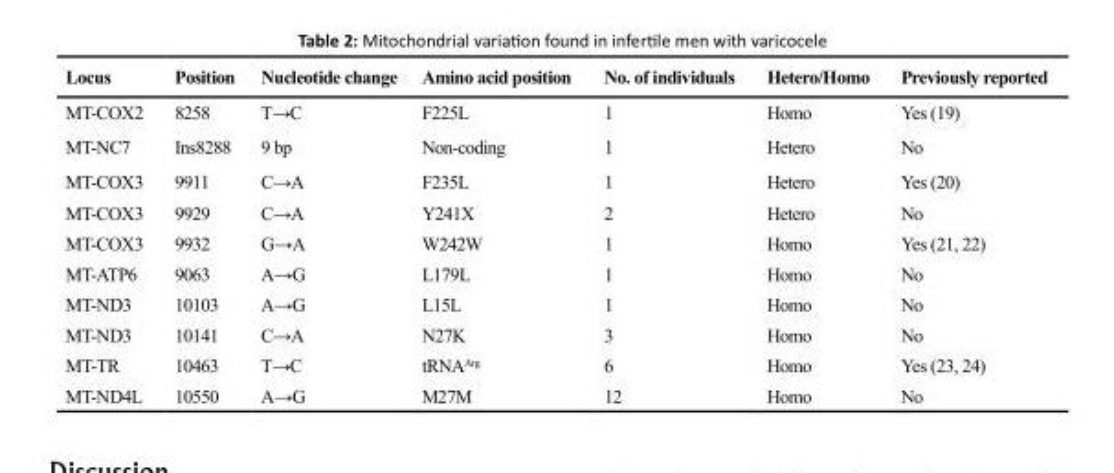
<table><thead><tr><td>Locus</td><td>Position</td><td>Nucleotide change</td><td>Amino acid position</td><td>No. of individuals</td><td>Hetero/Homo</td><td>Previously reported</td></tr></thead><tbody><tr><td>MT-COX2</td><td>8258</td><td>T→C</td><td>F225L</td><td>1</td><td>Homo</td><td>Yes (19)</td></tr><tr><td>MT-NC7</td><td>Ins8288</td><td>9 bp</td><td>Non-coding</td><td>1</td><td>Hetero</td><td>No</td></tr><tr><td>MT-COX3</td><td>9911</td><td>C→A</td><td>F235L</td><td>1</td><td>Hetero</td><td>Yes (20)</td></tr><tr><td>MT-COX3</td><td>9929</td><td>C→A</td><td>Y241X</td><td>2</td><td>Hetero</td><td>No</td></tr><tr><td>MT-COX3</td><td>9932</td><td>G→A</td><td>W242W</td><td>1</td><td>Homo</td><td>Yes (21, 22)</td></tr><tr><td>MT-ATP6</td><td>9063</td><td>A→G</td><td>L179L</td><td>1</td><td>Homo</td><td>No</td></tr><tr><td>MT-ND3</td><td>10103</td><td>A→G</td><td>L15L</td><td>1</td><td>Homo</td><td>No</td></tr><tr><td>MT-ND3</td><td>10141</td><td>C→A</td><td>N27K</td><td>3</td><td>Homo</td><td>No</td></tr><tr><td>MT-TR</td><td>10463</td><td>T→C</td><td>tRNA<sup>Arg</sup></td><td>6</td><td>Homo</td><td>Yes (23, 24)</td></tr><tr><td>MT-ND4L</td><td>10550</td><td>A→G</td><td>M27M</td><td>12</td><td>Homo</td><td>No</td></tr></tbody></table>